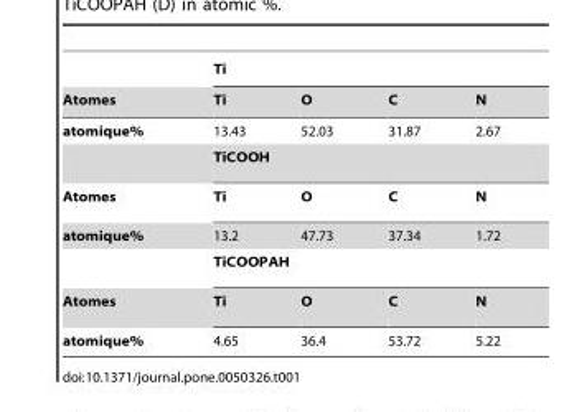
<table><thead><tr><td rowspan="2">Atomes</td><td colspan="4">Ti</td></tr><tr><td>Ti</td><td>O</td><td>C</td><td>N</td></tr></thead><tbody><tr><td rowspan="2">atomique%</td><td>13.43</td><td>52.03</td><td>31.87</td><td>2.67</td></tr><tr><td colspan="4">TiCOOH</td></tr><tr><td>Atomes</td><td>Ti</td><td>O</td><td>C</td><td>N</td></tr><tr><td rowspan="2">atomique%</td><td>13.2</td><td>47.73</td><td>37.34</td><td>1.72</td></tr><tr><td colspan="4">TiCOOPAH</td></tr><tr><td>Atomes</td><td>Ti</td><td>O</td><td>C</td><td>N</td></tr><tr><td>atomique%</td><td>4.65</td><td>36.4</td><td>53.72</td><td>5.22</td></tr></tbody></table>